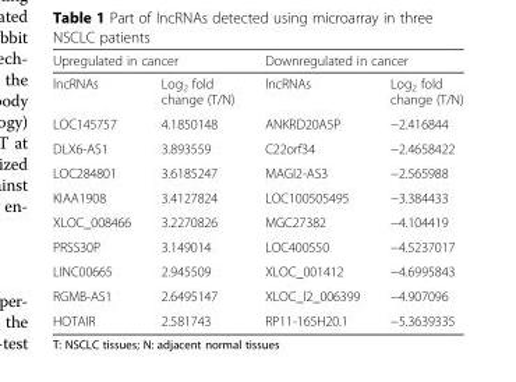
<table><thead><tr><td colspan="2">Upregulated in cancer</td><td colspan="2">Downregulated in cancer</td></tr><tr><td>lncRNAs</td><td>Log<sub>2</sub> fold change (T/N)</td><td>lncRNAs</td><td>Log<sub>2</sub> fold change (T/N)</td></tr></thead><tbody><tr><td>LOC145757</td><td>4.1850148</td><td>ANKRD20A5P</td><td>−2.416844</td></tr><tr><td>DLX6-AS1</td><td>3.893559</td><td>C22orf34</td><td>−2.4658422</td></tr><tr><td>LOC284801</td><td>3.6185247</td><td>MAGI2-AS3</td><td>−2.565988</td></tr><tr><td>KIAA1908</td><td>3.4127824</td><td>LOC100505495</td><td>−3.384433</td></tr><tr><td>XLOC_008466</td><td>3.2270826</td><td>MGC27382</td><td>−4.104419</td></tr><tr><td>PRSS30P</td><td>3.149014</td><td>LOC400550</td><td>−4.5237017</td></tr><tr><td>LINC00665</td><td>2.945509</td><td>XLOC_001412</td><td>−4.6995843</td></tr><tr><td>RGMB-AS1</td><td>2.6495147</td><td>XLOC_l2_006399</td><td>−4.907096</td></tr><tr><td>HOTAIR</td><td>2.581743</td><td>RP11-165H20.1</td><td>−5.3639335</td></tr></tbody></table>